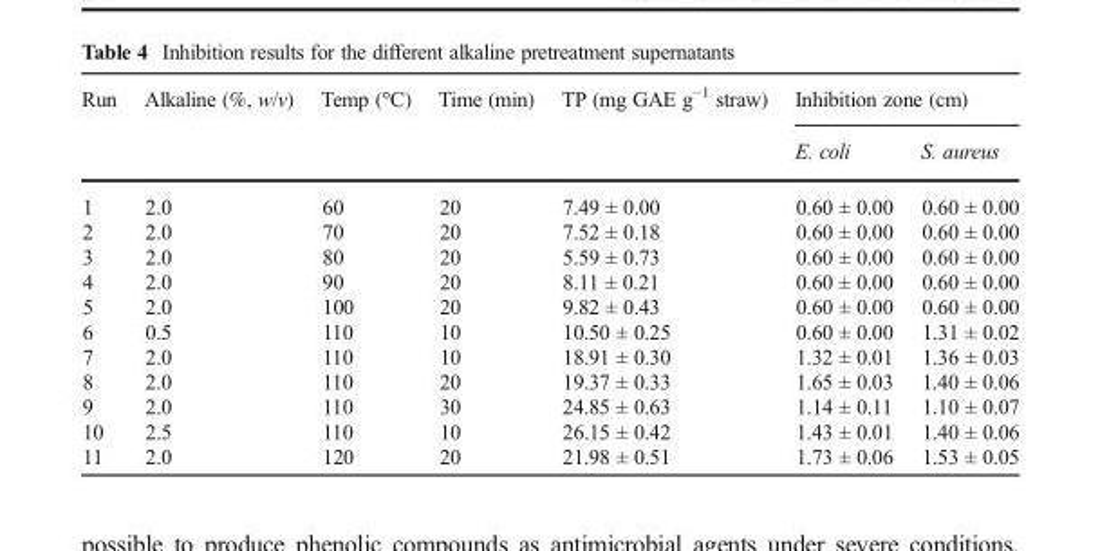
<table><thead><tr><td rowspan="2">Run</td><td rowspan="2">Alkaline (%, w/v)</td><td rowspan="2">Temp (°C)</td><td rowspan="2">Time (min)</td><td rowspan="2">TP (mg GAE g<sup>−1</sup> straw)</td><td colspan="2">Inhibition zone (cm)</td></tr><tr><td>E. coli</td><td>S. aureus</td></tr></thead><tbody><tr><td>1</td><td>2.0</td><td>60</td><td>20</td><td>7.49 ± 0.00</td><td>0.60 ± 0.00</td><td>0.60 ± 0.00</td></tr><tr><td>2</td><td>2.0</td><td>70</td><td>20</td><td>7.52 ± 0.18</td><td>0.60 ± 0.00</td><td>0.60 ± 0.00</td></tr><tr><td>3</td><td>2.0</td><td>80</td><td>20</td><td>5.59 ± 0.73</td><td>0.60 ± 0.00</td><td>0.60 ± 0.00</td></tr><tr><td>4</td><td>2.0</td><td>90</td><td>20</td><td>8.11 ± 0.21</td><td>0.60 ± 0.00</td><td>0.60 ± 0.00</td></tr><tr><td>5</td><td>2.0</td><td>100</td><td>20</td><td>9.82 ± 0.43</td><td>0.60 ± 0.00</td><td>0.60 ± 0.00</td></tr><tr><td>6</td><td>0.5</td><td>110</td><td>10</td><td>10.50 ± 0.25</td><td>0.60 ± 0.00</td><td>1.31 ± 0.02</td></tr><tr><td>7</td><td>2.0</td><td>110</td><td>10</td><td>18.91 ± 0.30</td><td>1.32 ± 0.01</td><td>1.36 ± 0.03</td></tr><tr><td>8</td><td>2.0</td><td>110</td><td>20</td><td>19.37 ± 0.33</td><td>1.65 ± 0.03</td><td>1.40 ± 0.06</td></tr><tr><td>9</td><td>2.0</td><td>110</td><td>30</td><td>24.85 ± 0.63</td><td>1.14 ± 0.11</td><td>1.10 ± 0.07</td></tr><tr><td>10</td><td>2.5</td><td>110</td><td>10</td><td>26.15 ± 0.42</td><td>1.43 ± 0.01</td><td>1.40 ± 0.06</td></tr><tr><td>11</td><td>2.0</td><td>120</td><td>20</td><td>21.98 ± 0.51</td><td>1.73 ± 0.06</td><td>1.53 ± 0.05</td></tr></tbody></table>